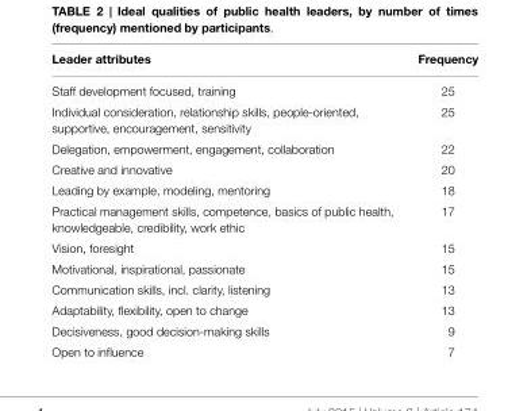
<table><thead><tr><td>Leader attributes</td><td>Frequency</td></tr></thead><tbody><tr><td>Staff development focused, training</td><td>25</td></tr><tr><td>Individual consideration, relationship skills, people-oriented, supportive, encouragement, sensitivity</td><td>25</td></tr><tr><td>Delegation, empowerment, engagement, collaboration</td><td>22</td></tr><tr><td>Creative and innovative</td><td>20</td></tr><tr><td>Leading by example, modeling, mentoring</td><td>18</td></tr><tr><td>Practical management skills, competence, basics of public health, knowledgeable, credibility, work ethic</td><td>17</td></tr><tr><td>Vision, foresight</td><td>15</td></tr><tr><td>Motivational, inspirational, passionate</td><td>15</td></tr><tr><td>Communication skills, incl. clarity, listening</td><td>13</td></tr><tr><td>Adaptability, flexibility, open to change</td><td>13</td></tr><tr><td>Decisiveness, good decision-making skills</td><td>9</td></tr><tr><td>Open to influence</td><td>7</td></tr></tbody></table>